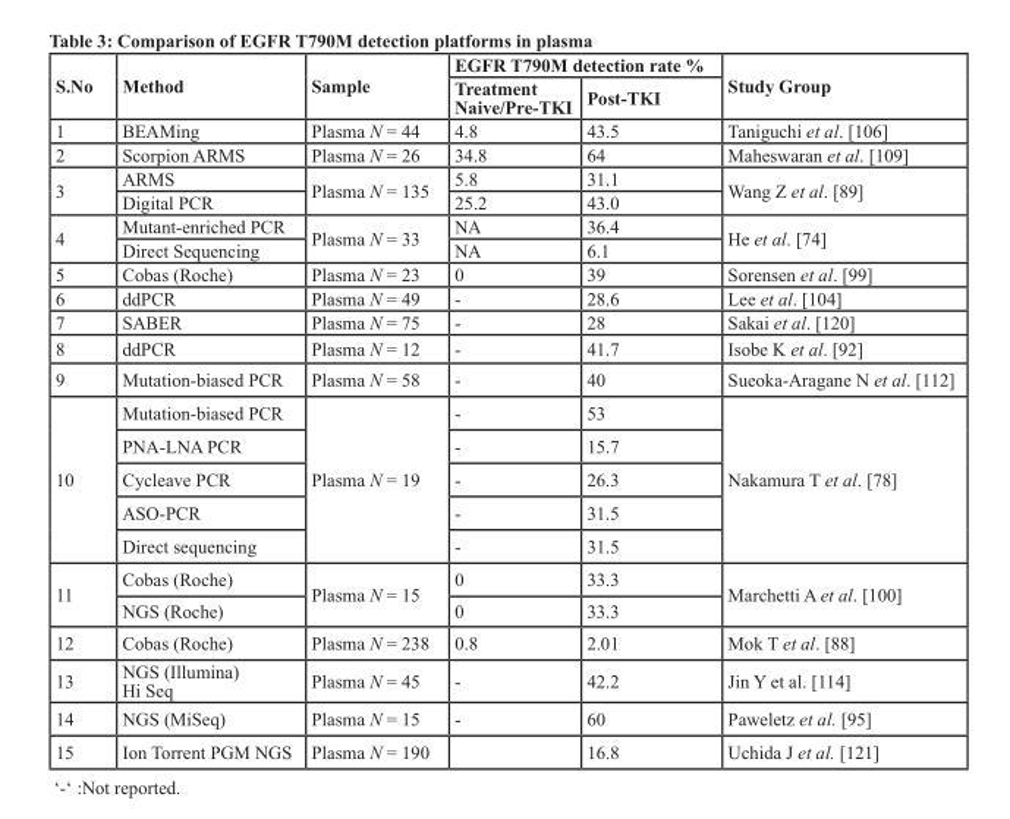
<table><thead><tr><td rowspan="2">S.No</td><td rowspan="2">Method</td><td rowspan="2">Sample</td><td colspan="2">EGFR T790M detection rate %</td><td rowspan="2">Study Group</td></tr><tr><td>Treatment Naive/Pre-TKI</td><td>Post-TKI</td></tr></thead><tbody><tr><td>1</td><td>BEAMing</td><td>Plasma N = 44</td><td>4.8</td><td>43.5</td><td>Taniguchi et al. [106]</td></tr><tr><td>2</td><td>Scorpion ARMS</td><td>Plasma N = 26</td><td>34.8</td><td>64</td><td>Maheswaran et al. [109]</td></tr><tr><td rowspan="2">3</td><td>ARMS</td><td rowspan="2">Plasma N = 135</td><td>5.8</td><td>31.1</td><td rowspan="2">Wang Z et al. [89]</td></tr><tr><td>Digital PCR</td><td>25.2</td><td>43.0</td></tr><tr><td rowspan="2">4</td><td>Mutant-enriched PCR</td><td rowspan="2">Plasma N = 33</td><td>NA</td><td>36.4</td><td rowspan="2">He et al. [74]</td></tr><tr><td>Direct Sequencing</td><td>NA</td><td>6.1</td></tr><tr><td>5</td><td>Cobas (Roche)</td><td>Plasma N = 23</td><td>0</td><td>39</td><td>Sorensen et al. [99]</td></tr><tr><td>6</td><td>ddPCR</td><td>Plasma N = 49</td><td>-</td><td>28.6</td><td>Lee et al. [104]</td></tr><tr><td>7</td><td>SABER</td><td>Plasma N = 75</td><td>-</td><td>28</td><td>Sakai et al. [120]</td></tr><tr><td>8</td><td>ddPCR</td><td>Plasma N = 12</td><td>-</td><td>41.7</td><td>Isobe K et al. [92]</td></tr><tr><td>9</td><td>Mutation-biased PCR</td><td>Plasma N = 58</td><td>-</td><td>40</td><td>Sueoka-Aragane N et al. [112]</td></tr><tr><td rowspan="5">10</td><td>Mutation-biased PCR</td><td rowspan="5">Plasma N = 19</td><td>-</td><td>53</td><td rowspan="5">Nakamura T et al. [78]</td></tr><tr><td>PNA-LNA PCR</td><td>-</td><td>15.7</td></tr><tr><td>Cycleave PCR</td><td>-</td><td>26.3</td></tr><tr><td>ASO-PCR</td><td>-</td><td>31.5</td></tr><tr><td>Direct sequencing</td><td>-</td><td>31.5</td></tr><tr><td rowspan="2">11</td><td>Cobas (Roche)</td><td rowspan="2">Plasma N = 15</td><td>0</td><td>33.3</td><td rowspan="2">Marchetti A et al. [100]</td></tr><tr><td>NGS (Roche)</td><td>0</td><td>33.3</td></tr><tr><td>12</td><td>Cobas (Roche)</td><td>Plasma N = 238</td><td>0.8</td><td>2.01</td><td>Mok T et al. [88]</td></tr><tr><td>13</td><td>NGS (Illumina) Hi Seq</td><td>Plasma N = 45</td><td>-</td><td>42.2</td><td>Jin Y et al. [114]</td></tr><tr><td>14</td><td>NGS (MiSeq)</td><td>Plasma N = 15</td><td>-</td><td>60</td><td>Paweletz et al. [95]</td></tr><tr><td>15</td><td>Ion Torrent PGM NGS</td><td>Plasma N = 190</td><td></td><td>16.8</td><td>Uchida J et al. [121]</td></tr></tbody></table>